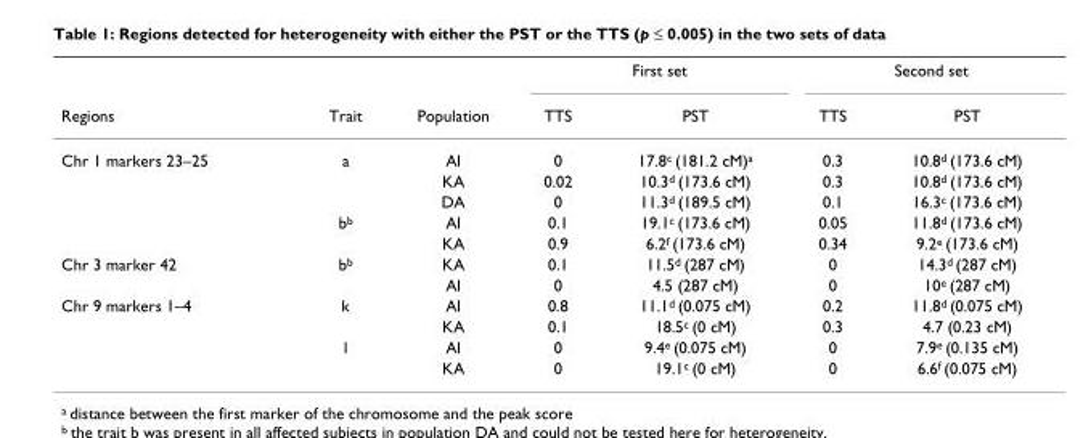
<table><thead><tr><td rowspan="2">Regions</td><td rowspan="2">Trait</td><td rowspan="2">Population</td><td colspan="2">First set</td><td colspan="2">Second set</td></tr><tr><td>TTS</td><td>PST</td><td>TTS</td><td>PST</td></tr></thead><tbody><tr><td rowspan="5">Chr 1 markers 23–25</td><td>a</td><td>AI</td><td>0</td><td>17.8c (181.2 cM)a</td><td>0.3</td><td>10.8d (173.6 cM)</td></tr><tr><td></td><td>KA</td><td>0.02</td><td>10.3d (173.6 cM)</td><td>0.3</td><td>10.8d (173.6 cM)</td></tr><tr><td></td><td>DA</td><td>0</td><td>11.3d (189.5 cM)</td><td>0.1</td><td>16.3c (173.6 cM)</td></tr><tr><td>bb</td><td>AI</td><td>0.1</td><td>19.1c (173.6 cM)</td><td>0.05</td><td>11.8d (173.6 cM)</td></tr><tr><td></td><td>KA</td><td>0.9</td><td>6.2f (173.6 cM)</td><td>0.34</td><td>9.2e (173.6 cM)</td></tr><tr><td rowspan="2">Chr 3 marker 42</td><td>bb</td><td>KA</td><td>0.1</td><td>11.5d (287 cM)</td><td>0</td><td>14.3d (287 cM)</td></tr><tr><td></td><td>AI</td><td>0</td><td>4.5 (287 cM)</td><td>0</td><td>10e (287 cM)</td></tr><tr><td rowspan="4">Chr 9 markers 1–4</td><td>k</td><td>AI</td><td>0.8</td><td>11.1d (0.075 cM)</td><td>0.2</td><td>11.8d (0.075 cM)</td></tr><tr><td></td><td>KA</td><td>0.1</td><td>18.5c (0 cM)</td><td>0.3</td><td>4.7 (0.23 cM)</td></tr><tr><td>l</td><td>AI</td><td>0</td><td>9.4e (0.075 cM)</td><td>0</td><td>7.9e (0.135 cM)</td></tr><tr><td></td><td>KA</td><td>0</td><td>19.1c (0 cM)</td><td>0</td><td>6.6f (0.075 cM)</td></tr></tbody></table>